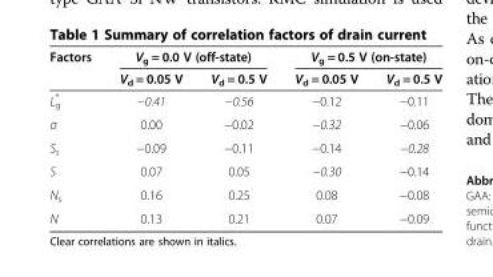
<table><thead><tr><td rowspan="2">Factors</td><td colspan="2">V<sub>g</sub> = 0.0 V (off-state)</td><td colspan="2">V<sub>g</sub> = 0.5 V (on-state)</td></tr><tr><td>V<sub>d</sub> = 0.05 V</td><td>V<sub>d</sub> = 0.5 V</td><td>V<sub>d</sub> = 0.05 V</td><td>V<sub>d</sub> = 0.5 V</td></tr></thead><tbody><tr><td>L<sub>g</sub> *</td><td>−0.41</td><td>−0.56</td><td>−0.12</td><td>−0.11</td></tr><tr><td>σ</td><td>0.00</td><td>−0.02</td><td>−0.32</td><td>−0.06</td></tr><tr><td>S<sub>s</sub></td><td>−0.09</td><td>−0.11</td><td>−0.14</td><td>−0.28</td></tr><tr><td>S</td><td>0.07</td><td>0.05</td><td>−0.30</td><td>−0.14</td></tr><tr><td>N<sub>s</sub></td><td>0.16</td><td>0.25</td><td>0.08</td><td>−0.08</td></tr><tr><td>N</td><td>0.13</td><td>0.21</td><td>0.07</td><td>−0.09</td></tr></tbody></table>